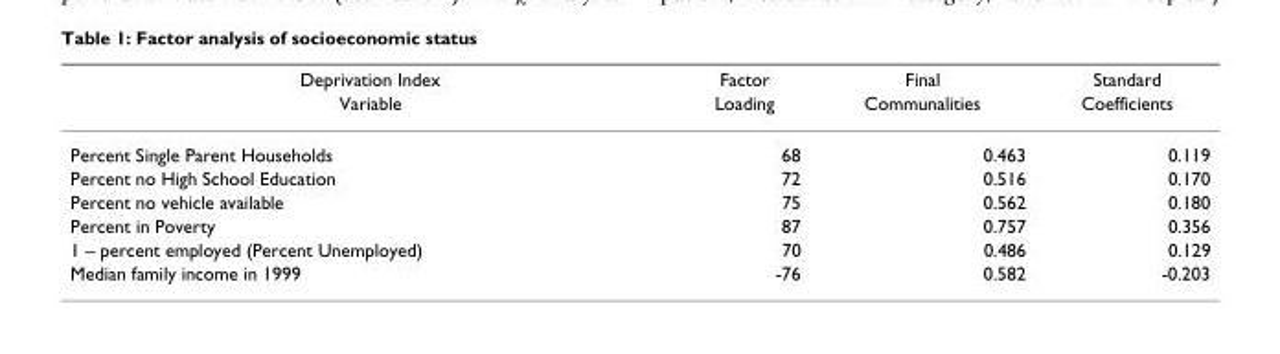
<table><thead><tr><td rowspan="2">Deprivation Index Variable</td><td rowspan="2">Factor Loading</td><td rowspan="2">Final Communalities</td><td rowspan="2">Standard Coefficients</td></tr><tr></tr></thead><tbody><tr><td>Percent Single Parent Households</td><td>68</td><td>0.463</td><td>0.119</td></tr><tr><td>Percent no High School Education</td><td>72</td><td>0.516</td><td>0.170</td></tr><tr><td>Percent no vehicle available</td><td>75</td><td>0.562</td><td>0.180</td></tr><tr><td>Percent in Poverty</td><td>87</td><td>0.757</td><td>0.356</td></tr><tr><td>1 – percent employed (Percent Unemployed)</td><td>70</td><td>0.486</td><td>0.129</td></tr><tr><td>Median family income in 1999</td><td>-76</td><td>0.582</td><td>-0.203</td></tr></tbody></table>